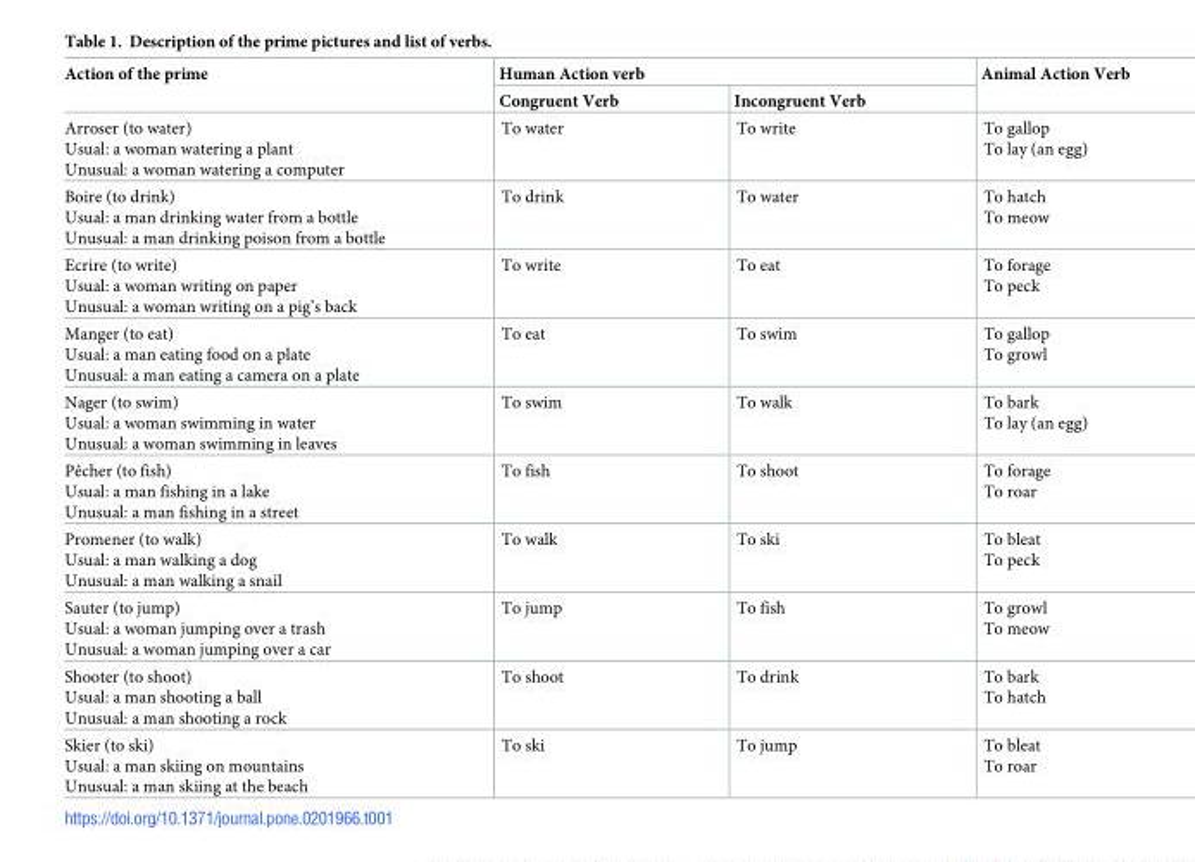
<table><thead><tr><td rowspan="2">Action of the prime</td><td colspan="2">Human Action verb</td><td rowspan="2">Animal Action Verb</td></tr><tr><td>Congruent Verb</td><td>Incongruent Verb</td></tr></thead><tbody><tr><td>Arroser (to water) Usual: a woman watering a plant Unusual: a woman watering a computer</td><td>To water</td><td>To write</td><td>To gallop To lay (an egg)</td></tr><tr><td>Boire (to drink) Usual: a man drinking water from a bottle Unusual: a man drinking poison from a bottle</td><td>To drink</td><td>To water</td><td>To hatch To meow</td></tr><tr><td>Ecrire (to write) Usual: a woman writing on paper Unusual: a woman writing on a pig’s back</td><td>To write</td><td>To eat</td><td>To forage To peck</td></tr><tr><td>Manger (to eat) Usual: a man eating food on a plate Unusual: a man eating a camera on a plate</td><td>To eat</td><td>To swim</td><td>To gallop To growl</td></tr><tr><td>Nager (to swim) Usual: a woman swimming in water Unusual: a woman swimming in leaves</td><td>To swim</td><td>To walk</td><td>To bark To lay (an egg)</td></tr><tr><td>Pêcher (to fish) Usual: a man fishing in a lake Unusual: a man fishing in a street</td><td>To fish</td><td>To shoot</td><td>To forage To roar</td></tr><tr><td>Promener (to walk) Usual: a man walking a dog Unusual: a man walking a snail</td><td>To walk</td><td>To ski</td><td>To bleat To peck</td></tr><tr><td>Sauter (to jump) Usual: a woman jumping over a trash Unusual: a woman jumping over a car</td><td>To jump</td><td>To fish</td><td>To growl To meow</td></tr><tr><td>Shooter (to shoot) Usual: a man shooting a ball Unusual: a man shooting a rock</td><td>To shoot</td><td>To drink</td><td>To bark To hatch</td></tr><tr><td>Skier (to ski) Usual: a man skiing on mountains Unusual: a man skiing at the beach</td><td>To ski</td><td>To jump</td><td>To bleat To roar</td></tr></tbody></table>